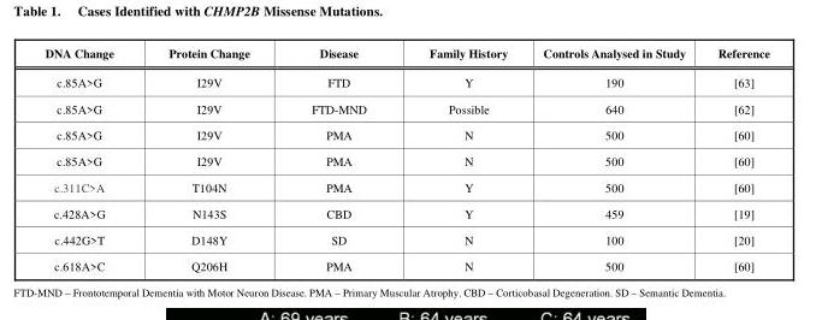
<table><thead><tr><td>DNA Change</td><td>Protein Change</td><td>Disease</td><td>Family History</td><td>Controls Analysed in Study</td><td>Reference</td></tr></thead><tbody><tr><td>c.85A&gt;G</td><td>I29V</td><td>FTD</td><td>Y</td><td>190</td><td>[63]</td></tr><tr><td>c.85A&gt;G</td><td>I29V</td><td>FTD-MND</td><td>Possible</td><td>640</td><td>[62]</td></tr><tr><td>c.85A&gt;G</td><td>I29V</td><td>PMA</td><td>N</td><td>500</td><td>[60]</td></tr><tr><td>c.85A&gt;G</td><td>I29V</td><td>PMA</td><td>N</td><td>500</td><td>[60]</td></tr><tr><td>c.311C&gt;A</td><td>T104N</td><td>PMA</td><td>Y</td><td>500</td><td>[60]</td></tr><tr><td>c.428A&gt;G</td><td>N143S</td><td>CBD</td><td>Y</td><td>459</td><td>[19]</td></tr><tr><td>c.442G&gt;T</td><td>D148Y</td><td>SD</td><td>N</td><td>100</td><td>[20]</td></tr><tr><td>c.618A&gt;C</td><td>Q206H</td><td>PMA</td><td>N</td><td>500</td><td>[60]</td></tr></tbody></table>